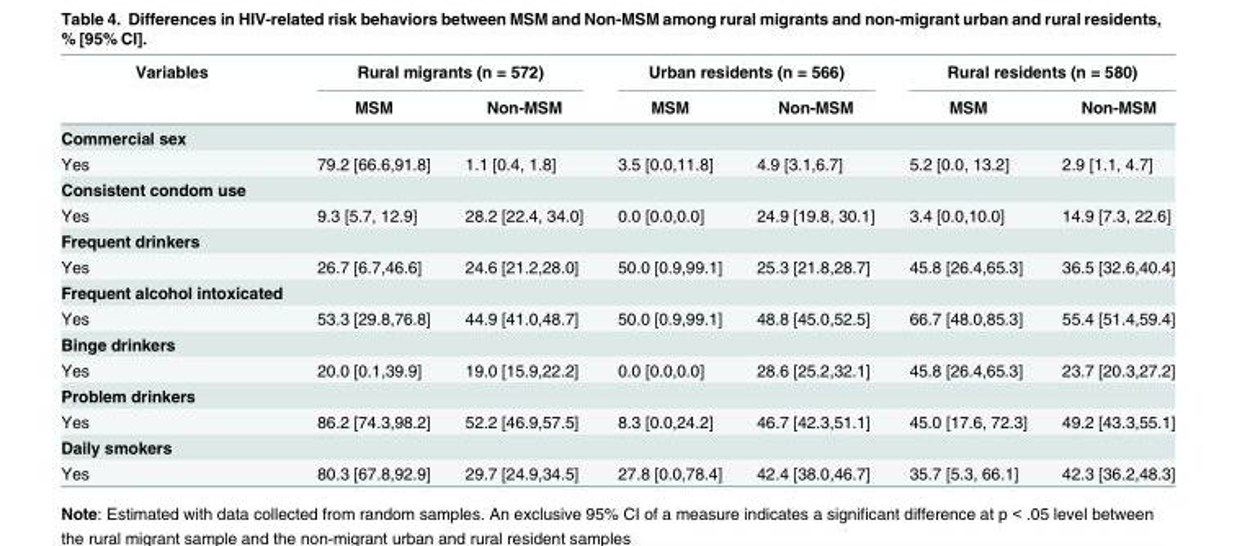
<table><thead><tr><td rowspan="2">Variables</td><td colspan="2">Rural migrants (n = 572)</td><td colspan="2">Urban residents (n = 566)</td><td colspan="2">Rural residents (n = 580)</td></tr><tr><td>MSM</td><td>Non-MSM</td><td>MSM</td><td>Non-MSM</td><td>MSM</td><td>Non-MSM</td></tr></thead><tbody><tr><td colspan="7">Commercial sex</td></tr><tr><td>Yes</td><td>79.2 [66.6,91.8]</td><td>1.1 [0.4, 1.8]</td><td>3.5 [0.0,11.8]</td><td>4.9 [3.1,6.7]</td><td>5.2 [0.0, 13.2]</td><td>2.9 [1.1, 4.7]</td></tr><tr><td colspan="7">Consistent condom use</td></tr><tr><td>Yes</td><td>9.3 [5.7, 12.9]</td><td>28.2 [22.4, 34.0]</td><td>0.0 [0.0,0.0]</td><td>24.9 [19.8, 30.1]</td><td>3.4 [0.0,10.0]</td><td>14.9 [7.3, 22.6]</td></tr><tr><td colspan="7">Frequent drinkers</td></tr><tr><td>Yes</td><td>26.7 [6.7,46.6]</td><td>24.6 [21.2,28.0]</td><td>50.0 [0.9,99.1]</td><td>25.3 [21.8,28.7]</td><td>45.8 [26.4,65.3]</td><td>36.5 [32.6,40.4]</td></tr><tr><td colspan="7">Frequent alcohol intoxicated</td></tr><tr><td>Yes</td><td>53.3 [29.8,76.8]</td><td>44.9 [41.0,48.7]</td><td>50.0 [0.9,99.1]</td><td>48.8 [45.0,52.5]</td><td>66.7 [48.0,85.3]</td><td>55.4 [51.4,59.4]</td></tr><tr><td colspan="7">Binge drinkers</td></tr><tr><td>Yes</td><td>20.0 [0.1,39.9]</td><td>19.0 [15.9,22.2]</td><td>0.0 [0.0,0.0]</td><td>28.6 [25.2,32.1]</td><td>45.8 [26.4,65.3]</td><td>23.7 [20.3,27.2]</td></tr><tr><td colspan="7">Problem drinkers</td></tr><tr><td>Yes</td><td>86.2 [74.3,98.2]</td><td>52.2 [46.9,57.5]</td><td>8.3 [0.0,24.2]</td><td>46.7 [42.3,51.1]</td><td>45.0 [17.6, 72.3]</td><td>49.2 [43.3,55.1]</td></tr><tr><td colspan="7">Daily smokers</td></tr><tr><td>Yes</td><td>80.3 [67.8,92.9]</td><td>29.7 [24.9,34.5]</td><td>27.8 [0.0,78.4]</td><td>42.4 [38.0,46.7]</td><td>35.7 [5.3, 66.1]</td><td>42.3 [36.2,48.3]</td></tr></tbody></table>